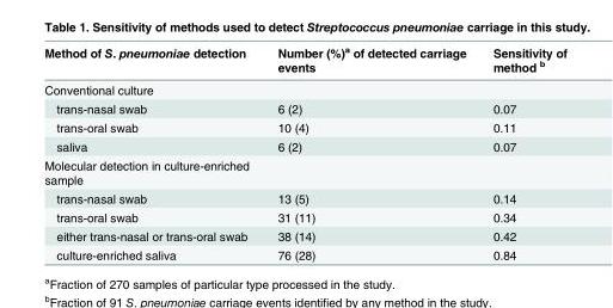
<table><thead><tr><td>Method of S. pneumoniae detection</td><td>Number (%)<sup>a</sup> of detected carriage events</td><td>Sensitivity of method <sup>b</sup></td></tr></thead><tbody><tr><td colspan="3">Conventional culture</td></tr><tr><td>trans-nasal swab</td><td>6 (2)</td><td>0.07</td></tr><tr><td>trans-oral swab</td><td>10 (4)</td><td>0.11</td></tr><tr><td>saliva</td><td>6 (2)</td><td>0.07</td></tr><tr><td colspan="3">Molecular detection in culture-enriched sample</td></tr><tr><td>trans-nasal swab</td><td>13 (5)</td><td>0.14</td></tr><tr><td>trans-oral swab</td><td>31 (11)</td><td>0.34</td></tr><tr><td>either trans-nasal or trans-oral swab</td><td>38 (14)</td><td>0.42</td></tr><tr><td>culture-enriched saliva</td><td>76 (28)</td><td>0.84</td></tr></tbody></table>